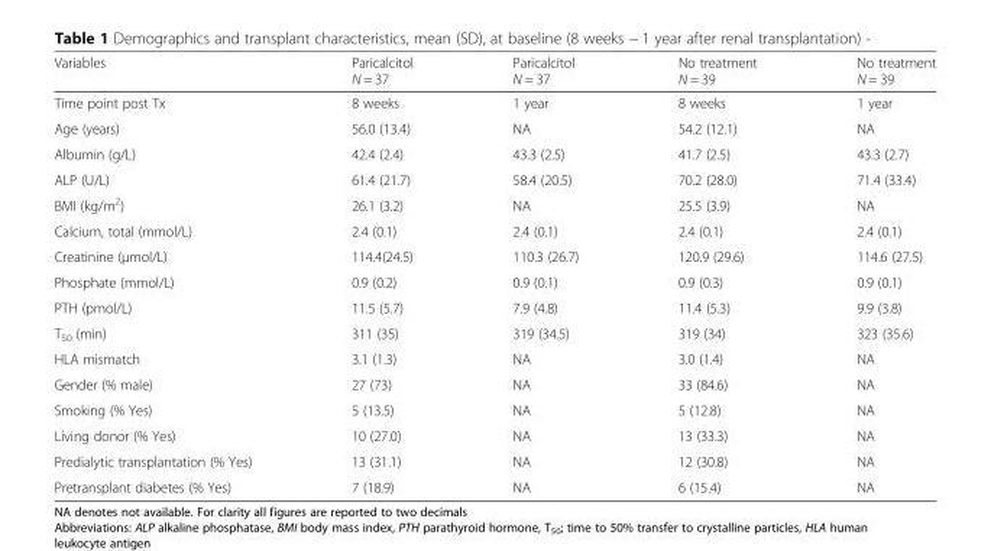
<table><thead><tr><td>Variables</td><td>Paricalcitol N = 37</td><td>Paricalcitol N = 37</td><td>No treatment N = 39</td><td>No treatment N = 39</td></tr></thead><tbody><tr><td>Time point post Tx</td><td>8 weeks</td><td>1 year</td><td>8 weeks</td><td>1 year</td></tr><tr><td>Age (years)</td><td>56.0 (13.4)</td><td>NA</td><td>54.2 (12.1)</td><td>NA</td></tr><tr><td>Albumin (g/L)</td><td>42.4 (2.4)</td><td>43.3 (2.5)</td><td>41.7 (2.5)</td><td>43.3 (2.7)</td></tr><tr><td>ALP (U/L)</td><td>61.4 (21.7)</td><td>58.4 (20.5)</td><td>70.2 (28.0)</td><td>71.4 (33.4)</td></tr><tr><td>BMI (kg/m<sup>2</sup>)</td><td>26.1 (3.2)</td><td>NA</td><td>25.5 (3.9)</td><td>NA</td></tr><tr><td>Calcium, total (mmol/L)</td><td>2.4 (0.1)</td><td>2.4 (0.1)</td><td>2.4 (0.1)</td><td>2.4 (0.1)</td></tr><tr><td>Creatinine (μmol/L)</td><td>114.4(24.5)</td><td>110.3 (26.7)</td><td>120.9 (29.6)</td><td>114.6 (27.5)</td></tr><tr><td>Phosphate (mmol/L)</td><td>0.9 (0.2)</td><td>0.9 (0.1)</td><td>0.9 (0.3)</td><td>0.9 (0.1)</td></tr><tr><td>PTH (pmol/L)</td><td>11.5 (5.7)</td><td>7.9 (4.8)</td><td>11.4 (5.3)</td><td>9.9 (3.8)</td></tr><tr><td>T<sub>50</sub> (min)</td><td>311 (35)</td><td>319 (34.5)</td><td>319 (34)</td><td>323 (35.6)</td></tr><tr><td>HLA mismatch</td><td>3.1 (1.3)</td><td>NA</td><td>3.0 (1.4)</td><td>NA</td></tr><tr><td>Gender (% male)</td><td>27 (73)</td><td>NA</td><td>33 (84.6)</td><td>NA</td></tr><tr><td>Smoking (% Yes)</td><td>5 (13.5)</td><td>NA</td><td>5 (12.8)</td><td>NA</td></tr><tr><td>Living donor (% Yes)</td><td>10 (27.0)</td><td>NA</td><td>13 (33.3)</td><td>NA</td></tr><tr><td>Predialytic transplantation (% Yes)</td><td>13 (31.1)</td><td>NA</td><td>12 (30.8)</td><td>NA</td></tr><tr><td>Pretransplant diabetes (% Yes)</td><td>7 (18.9)</td><td>NA</td><td>6 (15.4)</td><td>NA</td></tr></tbody></table>